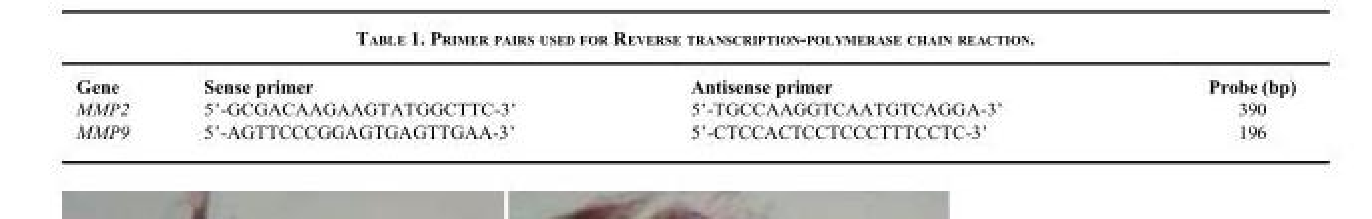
<table><thead><tr><td>Gene</td><td>Sense primer</td><td>Antisense primer</td><td>Probe (bp)</td></tr></thead><tbody><tr><td>MMP2</td><td>5’-GCGACAAGAAGTATGGCTTC-3’</td><td>5’-TGCCAAGGTCAATGTCAGGA-3’</td><td>390</td></tr><tr><td>MMP9</td><td>5’-AGTTCCCGGAGTGAGTTGAA-3’</td><td>5’-CTCCACTCCTCCCTTTCCTC-3’</td><td>196</td></tr></tbody></table>